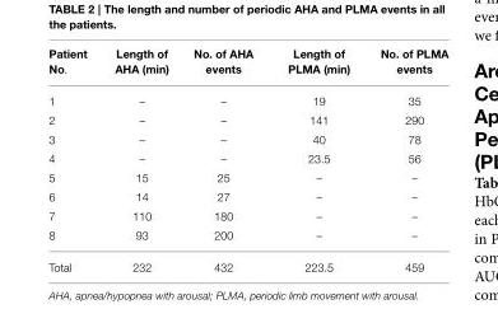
<table><thead><tr><td>Patient No.</td><td>Length of AHA (min)</td><td>No. of AHA events</td><td>Length of PLMA (min)</td><td>No. of PLMA events</td></tr></thead><tbody><tr><td>1</td><td>–</td><td>–</td><td>19</td><td>35</td></tr><tr><td>2</td><td>–</td><td>–</td><td>141</td><td>290</td></tr><tr><td>3</td><td>–</td><td>–</td><td>40</td><td>78</td></tr><tr><td>4</td><td>–</td><td>–</td><td>23.5</td><td>56</td></tr><tr><td>5</td><td>15</td><td>25</td><td>–</td><td>–</td></tr><tr><td>6</td><td>14</td><td>27</td><td>–</td><td>–</td></tr><tr><td>7</td><td>110</td><td>180</td><td>–</td><td>–</td></tr><tr><td>8</td><td>93</td><td>200</td><td>–</td><td>–</td></tr><tr><td>Total</td><td>232</td><td>432</td><td>223.5</td><td>459</td></tr></tbody></table>